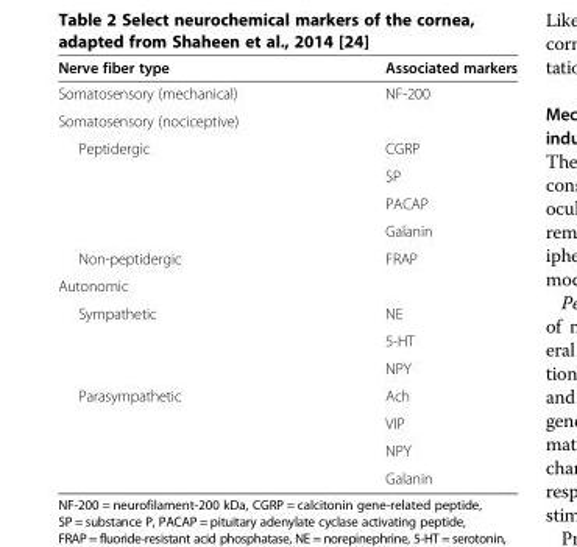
<table><thead><tr><td>Nerve fiber type</td><td>Associated markers</td></tr></thead><tbody><tr><td>Somatosensory (mechanical)</td><td>NF-200</td></tr><tr><td colspan="2">Somatosensory (nociceptive)</td></tr><tr><td rowspan="4">Peptidergic</td><td>CGRP</td></tr><tr><td>SP</td></tr><tr><td>PACAP</td></tr><tr><td>Galanin</td></tr><tr><td>Non-peptidergic</td><td>FRAP</td></tr><tr><td colspan="2">Autonomic</td></tr><tr><td rowspan="3">Sympathetic</td><td>NE</td></tr><tr><td>5-HT</td></tr><tr><td>NPY</td></tr><tr><td rowspan="4">Parasympathetic</td><td>Ach</td></tr><tr><td>VIP</td></tr><tr><td>NPY</td></tr><tr><td>Galanin</td></tr></tbody></table>